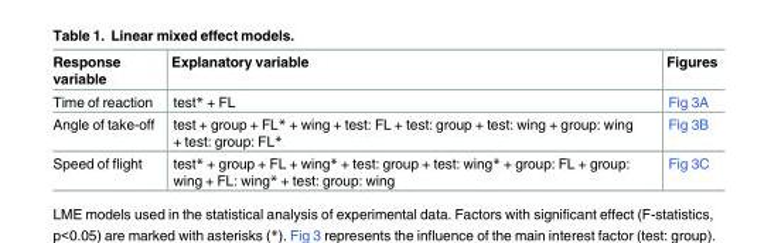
<table><thead><tr><td>Response variable</td><td>Explanatory variable</td><td>Figures</td></tr></thead><tbody><tr><td>Time of reaction</td><td>test* + FL</td><td>Fig 3A</td></tr><tr><td>Angle of take-off</td><td>test + group + FL* + wing + test: FL + test: group + test: wing + group: wing + test: group: FL*</td><td>Fig 3B</td></tr><tr><td>Speed of flight</td><td>test* + group + FL + wing* + test: group + test: wing* + group: FL + group: wing + FL: wing* + test: group: wing</td><td>Fig 3C</td></tr></tbody></table>